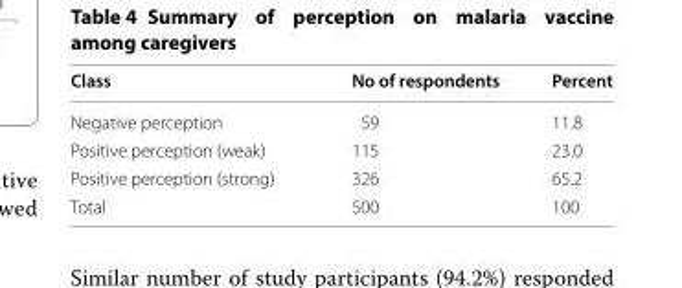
<table><thead><tr><td>Class</td><td>No of respondents</td><td>Percent</td></tr></thead><tbody><tr><td>Negative perception</td><td>59</td><td>11.8</td></tr><tr><td>Positive perception (weak)</td><td>115</td><td>23.0</td></tr><tr><td>Positive perception (strong)</td><td>326</td><td>65.2</td></tr><tr><td>Total</td><td>500</td><td>100</td></tr></tbody></table>